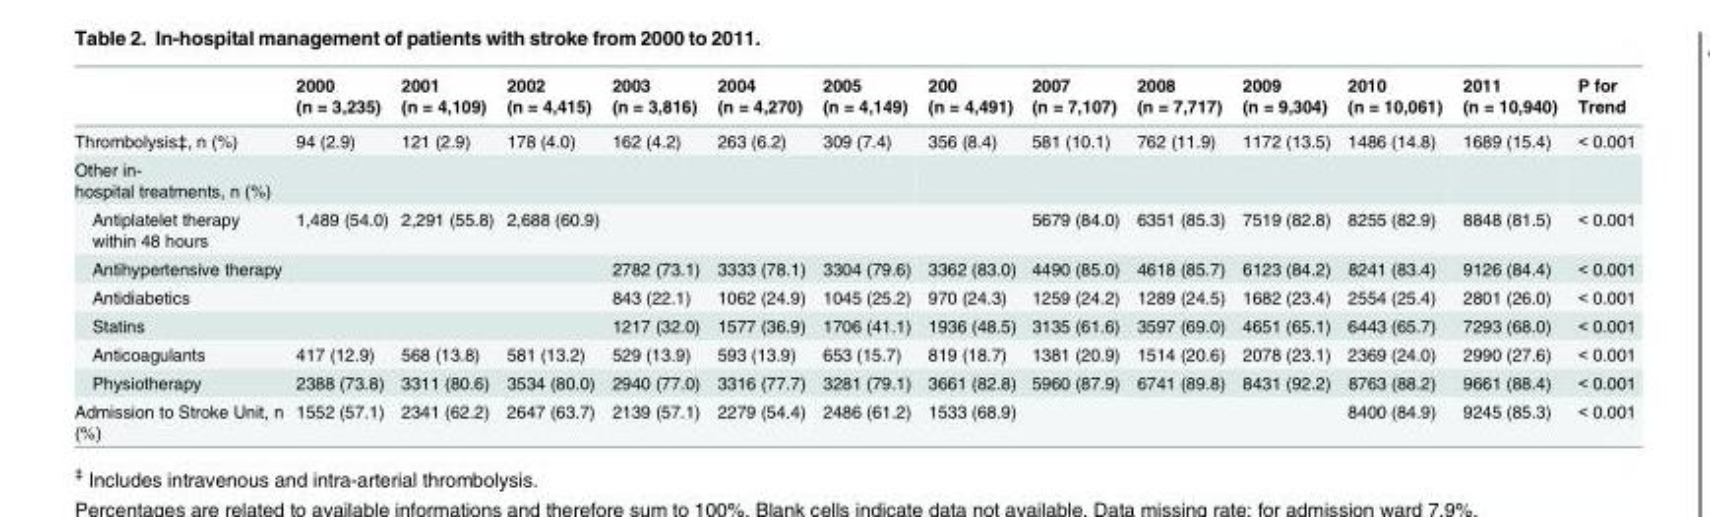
<table><thead><tr><td></td><td>2000 (n = 3,235)</td><td>2001 (n = 4,109)</td><td>2002 (n = 4,415)</td><td>2003 (n = 3,816)</td><td>2004 (n = 4,270)</td><td>2005 (n = 4,149)</td><td>200 (n = 4,491)</td><td>2007 (n = 7,107)</td><td>2008 (n = 7,717)</td><td>2009 (n = 9,304)</td><td>2010 (n = 10,061)</td><td>2011 (n = 10,940)</td><td>P for Trend</td></tr></thead><tbody><tr><td>Thrombolysis‡, n (%)</td><td>94 (2.9)</td><td>121 (2.9)</td><td>178 (4.0)</td><td>162 (4.2)</td><td>263 (6.2)</td><td>309 (7.4)</td><td>356 (8.4)</td><td>581 (10.1)</td><td>762 (11.9)</td><td>1172 (13.5)</td><td>1486 (14.8)</td><td>1689 (15.4)</td><td>&lt; 0.001</td></tr><tr><td colspan="14">Other in- hospital treatments, n (%)</td></tr><tr><td>Antiplatelet therapy within 48 hours</td><td>1,489 (54.0)</td><td>2,291 (55.8)</td><td>2,688 (60.9)</td><td></td><td></td><td></td><td></td><td>5679 (84.0)</td><td>6351 (85.3)</td><td>7519 (82.8)</td><td>8255 (82.9)</td><td>8848 (81.5)</td><td>&lt; 0.001</td></tr><tr><td>Antihypertensive therapy</td><td></td><td></td><td></td><td>2782 (73.1)</td><td>3333 (78.1)</td><td>3304 (79.6)</td><td>3362 (83.0)</td><td>4490 (85.0)</td><td>4618 (85.7)</td><td>6123 (84.2)</td><td>8241 (83.4)</td><td>9126 (84.4)</td><td>&lt; 0.001</td></tr><tr><td>Antidiabetics</td><td></td><td></td><td></td><td>843 (22.1)</td><td>1062 (24.9)</td><td>1045 (25.2)</td><td>970 (24.3)</td><td>1259 (24.2)</td><td>1289 (24.5)</td><td>1682 (23.4)</td><td>2554 (25.4)</td><td>2801 (26.0)</td><td>&lt; 0.001</td></tr><tr><td>Statins</td><td></td><td></td><td></td><td>1217 (32.0)</td><td>1577 (36.9)</td><td>1706 (41.1)</td><td>1936 (48.5)</td><td>3135 (61.6)</td><td>3597 (69.0)</td><td>4651 (65.1)</td><td>6443 (65.7)</td><td>7293 (68.0)</td><td>&lt; 0.001</td></tr><tr><td>Anticoagulants</td><td>417 (12.9)</td><td>568 (13.8)</td><td>581 (13.2)</td><td>529 (13.9)</td><td>593 (13.9)</td><td>653 (15.7)</td><td>819 (18.7)</td><td>1381 (20.9)</td><td>1514 (20.6)</td><td>2078 (23.1)</td><td>2369 (24.0)</td><td>2990 (27.6)</td><td>&lt; 0.001</td></tr><tr><td>Physiotherapy</td><td>2388 (73.8)</td><td>3311 (80.6)</td><td>3534 (80.0)</td><td>2940 (77.0)</td><td>3316 (77.7)</td><td>3281 (79.1)</td><td>3661 (82.8)</td><td>5960 (87.9)</td><td>6741 (89.8)</td><td>8431 (92.2)</td><td>8763 (88.2)</td><td>9661 (88.4)</td><td>&lt; 0.001</td></tr><tr><td>Admission to Stroke Unit, n (%)</td><td>1552 (57.1)</td><td>2341 (62.2)</td><td>2647 (63.7)</td><td>2139 (57.1)</td><td>2279 (54.4)</td><td>2486 (61.2)</td><td>1533 (68.9)</td><td></td><td></td><td></td><td>8400 (84.9)</td><td>9245 (85.3)</td><td>&lt; 0.001</td></tr></tbody></table>